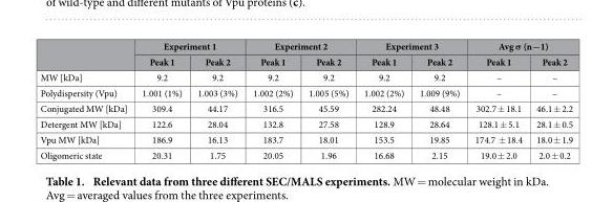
<table><thead><tr><td rowspan="2"></td><td colspan="2">Experiment 1</td><td colspan="2">Experiment 2</td><td colspan="2">Experiment 3</td><td colspan="2">Avg σ (n−1)</td></tr><tr><td>Peak 1</td><td>Peak 2</td><td>Peak 1</td><td>Peak 2</td><td>Peak 1</td><td>Peak 2</td><td>Peak 1</td><td>Peak 2</td></tr></thead><tbody><tr><td>MW [kDa]</td><td>9.2</td><td>9.2</td><td>9.2</td><td>9.2</td><td>9.2</td><td>9.2</td><td>–</td><td>–</td></tr><tr><td>Polydispersity (Vpu)</td><td>1.001 (1%)</td><td>1.003 (3%)</td><td>1.002 (2%)</td><td>1.005 (5%)</td><td>1.002 (2%)</td><td>1.009 (9%)</td><td>–</td><td>–</td></tr><tr><td>Conjugated MW [kDa]</td><td>309.4</td><td>44.17</td><td>316.5</td><td>45.59</td><td>282.24</td><td>48.48</td><td>302.7 ± 18.1</td><td>46.1 ± 2.2</td></tr><tr><td>Detergent MW [kDa]</td><td>122.6</td><td>28.04</td><td>132.8</td><td>27.58</td><td>128.9</td><td>28.64</td><td>128.1 ± 5.1</td><td>28.1 ± 0.5</td></tr><tr><td>Vpu MW [kDa]</td><td>186.9</td><td>16.13</td><td>183.7</td><td>18.01</td><td>153.5</td><td>19.85</td><td>174.7 ± 18.4</td><td>18.0 ± 1.9</td></tr><tr><td>Oligomeric state</td><td>20.31</td><td>1.75</td><td>20.05</td><td>1.96</td><td>16.68</td><td>2.15</td><td>19.0 ± 2.0</td><td>2.0 ± 0.2</td></tr></tbody></table>